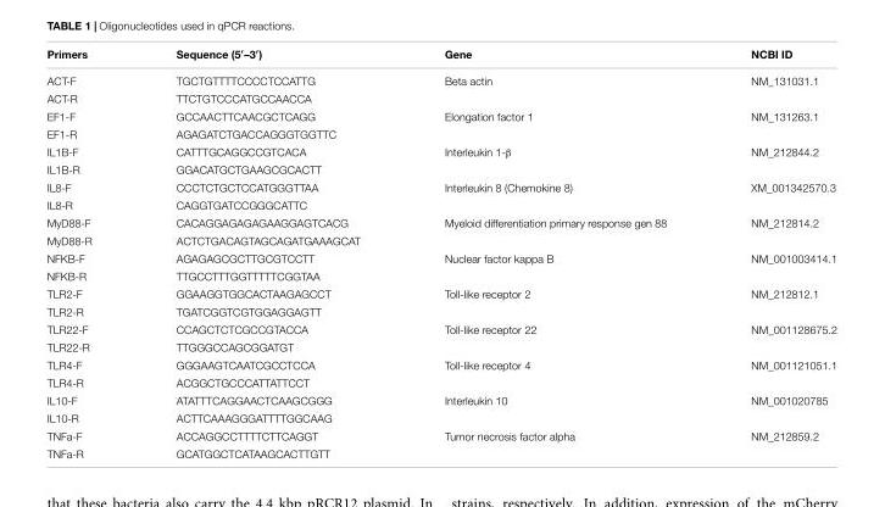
<table><thead><tr><td>Primers</td><td>Sequence (5′–3′)</td><td>Gene</td><td>NCBI ID</td></tr></thead><tbody><tr><td>ACT-F</td><td>TGCTGTTTTCCCCTCCATTG</td><td>Beta actin</td><td>NM_131031.1</td></tr><tr><td>ACT-R</td><td>TTCTGTCCCATGCCAACCA</td><td></td><td></td></tr><tr><td>EF1-F</td><td>GCCAACTTCAACGCTCAGG</td><td>Elongation factor 1</td><td>NM_131263.1</td></tr><tr><td>EF1-R</td><td>AGAGATCTGACCAGGGTGGTTC</td><td></td><td></td></tr><tr><td>IL1B-F</td><td>CATTTGCAGGCCGTCACA</td><td>Interleukin 1-β</td><td>NM_212844.2</td></tr><tr><td>IL1B-R</td><td>GGACATGCTGAAGCGCACTT</td><td></td><td></td></tr><tr><td>IL8-F</td><td>CCCTCTGCTCCATGGGTTAA</td><td>Interleukin 8 (Chemokine 8)</td><td>XM_001342570.3</td></tr><tr><td>IL8-R</td><td>CAGGTGATCCGGGCATTC</td><td></td><td></td></tr><tr><td>MyD88-F</td><td>CACAGGAGAGAGAAGGAGTCACG</td><td>Myeloid differentiation primary response gen 88</td><td>NM_212814.2</td></tr><tr><td>MyD88-R</td><td>ACTCTGACAGTAGCAGATGAAAGCAT</td><td></td><td></td></tr><tr><td>NFKB-F</td><td>AGAGAGCGCTTGCGTCCTT</td><td>Nuclear factor kappa B</td><td>NM_001003414.1</td></tr><tr><td>NFKB-R</td><td>TTGCCTTTGGTTTTTCGGTAA</td><td></td><td></td></tr><tr><td>TLR2-F</td><td>GGAAGGTGGCACTAAGAGCCT</td><td>Toll-like receptor 2</td><td>NM_212812.1</td></tr><tr><td>TLR2-R</td><td>TGATCGGTCGTGGAGGAGTT</td><td></td><td></td></tr><tr><td>TLR22-F</td><td>CCAGCTCTCGCCGTACCA</td><td>Toll-like receptor 22</td><td>NM_001128675.2</td></tr><tr><td>TLR22-R</td><td>TTGGGCCAGCGGATGT</td><td></td><td></td></tr><tr><td>TLR4-F</td><td>GGGAAGTCAATCGCCTCCA</td><td>Toll-like receptor 4</td><td>NM_001121051.1</td></tr><tr><td>TLR4-R</td><td>ACGGCTGCCCATTATTCCT</td><td></td><td></td></tr><tr><td>IL10-F</td><td>ATATTTCAGGAACTCAAGCGGG</td><td>Interleukin 10</td><td>NM_001020785</td></tr><tr><td>IL10-R</td><td>ACTTCAAAGGGATTTTGGCAAG</td><td></td><td></td></tr><tr><td>TNFa-F</td><td>ACCAGGCCTTTTCTTCAGGT</td><td>Tumor necrosis factor alpha</td><td>NM_212859.2</td></tr><tr><td>TNFa-R</td><td>GCATGGCTCATAAGCACTTGTT</td><td></td><td></td></tr></tbody></table>